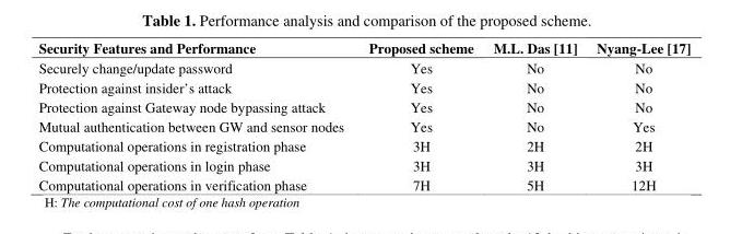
<table><thead><tr><td>Security Features and Performance</td><td>Proposed scheme</td><td>M.L. Das [11]</td><td>Nyang-Lee [17]</td></tr></thead><tbody><tr><td>Securely change/update password</td><td>Yes</td><td>No</td><td>No</td></tr><tr><td>Protection against insider’s attack</td><td>Yes</td><td>No</td><td>No</td></tr><tr><td>Protection against Gateway node bypassing attack</td><td>Yes</td><td>No</td><td>No</td></tr><tr><td>Mutual authentication between GW and sensor nodes</td><td>Yes</td><td>No</td><td>Yes</td></tr><tr><td>Computational operations in registration phase</td><td>3H</td><td>2H</td><td>2H</td></tr><tr><td>Computational operations in login phase</td><td>3H</td><td>3H</td><td>3H</td></tr><tr><td>Computational operations in verification phase</td><td>7H</td><td>5H</td><td>12H</td></tr></tbody></table>